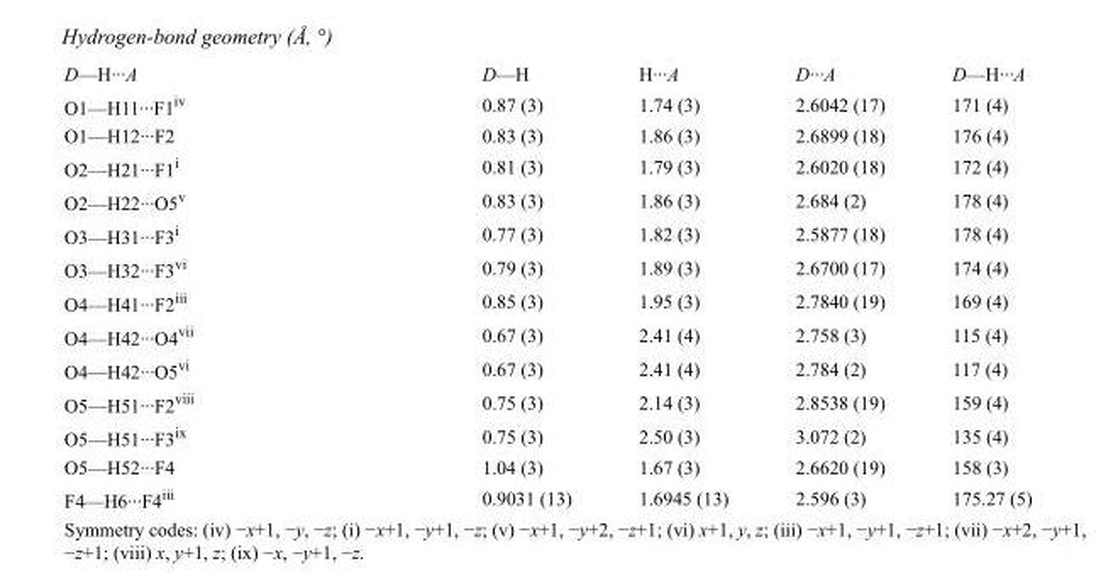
<table><tbody><tr><td>D—H···A</td><td>D—H</td><td>H···A</td><td>D···A</td><td>D—H···A</td></tr><tr><td>O1—H11···F1<sup>iv</sup></td><td>0.87 (3)</td><td>1.74 (3)</td><td>2.6042 (17)</td><td>171 (4)</td></tr><tr><td>O1—H12···F2</td><td>0.83 (3)</td><td>1.86 (3)</td><td>2.6899 (18)</td><td>176 (4)</td></tr><tr><td>O2—H21···F1<sup>i</sup></td><td>0.81 (3)</td><td>1.79 (3)</td><td>2.6020 (18)</td><td>172 (4)</td></tr><tr><td>O2—H22···O5<sup>v</sup></td><td>0.83 (3)</td><td>1.86 (3)</td><td>2.684 (2)</td><td>178 (4)</td></tr><tr><td>O3—H31···F3<sup>i</sup></td><td>0.77 (3)</td><td>1.82 (3)</td><td>2.5877 (18)</td><td>178 (4)</td></tr><tr><td>O3—H32···F3<sup>vi</sup></td><td>0.79 (3)</td><td>1.89 (3)</td><td>2.6700 (17)</td><td>174 (4)</td></tr><tr><td>O4—H41···F2<sup>iii</sup></td><td>0.85 (3)</td><td>1.95 (3)</td><td>2.7840 (19)</td><td>169 (4)</td></tr><tr><td>O4—H42···O4<sup>vii</sup></td><td>0.67 (3)</td><td>2.41 (4)</td><td>2.758 (3)</td><td>115 (4)</td></tr><tr><td>O4—H42···O5<sup>vi</sup></td><td>0.67 (3)</td><td>2.41 (4)</td><td>2.784 (2)</td><td>117 (4)</td></tr><tr><td>O5—H51···F2<sup>viii</sup></td><td>0.75 (3)</td><td>2.14 (3)</td><td>2.8538 (19)</td><td>159 (4)</td></tr><tr><td>O5—H51···F3<sup>ix</sup></td><td>0.75 (3)</td><td>2.50 (3)</td><td>3.072 (2)</td><td>135 (4)</td></tr><tr><td>O5—H52···F4</td><td>1.04 (3)</td><td>1.67 (3)</td><td>2.6620 (19)</td><td>158 (3)</td></tr><tr><td>F4—H6···F4<sup>iii</sup></td><td>0.9031 (13)</td><td>1.6945 (13)</td><td>2.596 (3)</td><td>175.27 (5)</td></tr></tbody></table>